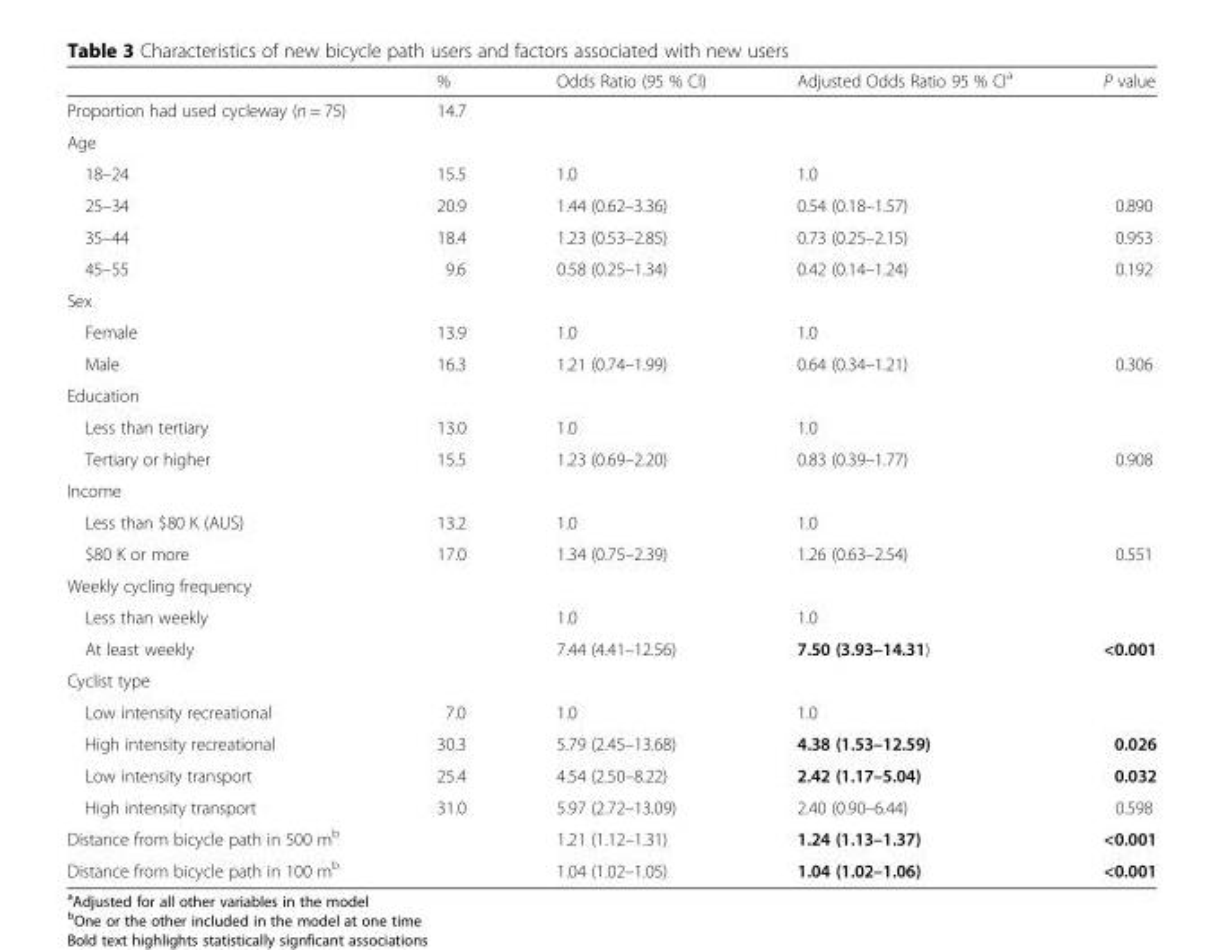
<table><thead><tr><td></td><td>%</td><td>Odds Ratio (95 % CI)</td><td>Adjusted Odds Ratio 95 % CI<sup>a</sup></td><td>P value</td></tr></thead><tbody><tr><td>Proportion had used cycleway (n = 75)</td><td>14.7</td><td></td><td></td><td></td></tr><tr><td colspan="5">Age</td></tr><tr><td>18–24</td><td>15.5</td><td>1.0</td><td>1.0</td><td></td></tr><tr><td>25–34</td><td>20.9</td><td>1.44 (0.62–3.36)</td><td>0.54 (0.18–1.57)</td><td>0.890</td></tr><tr><td>35–44</td><td>18.4</td><td>1.23 (0.53–2.85)</td><td>0.73 (0.25–2.15)</td><td>0.953</td></tr><tr><td>45–55</td><td>9.6</td><td>0.58 (0.25–1.34)</td><td>0.42 (0.14–1.24)</td><td>0.192</td></tr><tr><td colspan="5">Sex</td></tr><tr><td>Female</td><td>13.9</td><td>1.0</td><td>1.0</td><td></td></tr><tr><td>Male</td><td>16.3</td><td>1.21 (0.74–1.99)</td><td>0.64 (0.34–1.21)</td><td>0.306</td></tr><tr><td colspan="5">Education</td></tr><tr><td>Less than tertiary</td><td>13.0</td><td>1.0</td><td>1.0</td><td></td></tr><tr><td>Tertiary or higher</td><td>15.5</td><td>1.23 (0.69–2.20)</td><td>0.83 (0.39–1.77)</td><td>0.908</td></tr><tr><td colspan="5">Income</td></tr><tr><td>Less than $80 K (AUS)</td><td>13.2</td><td>1.0</td><td>1.0</td><td></td></tr><tr><td>$80 K or more</td><td>17.0</td><td>1.34 (0.75–2.39)</td><td>1.26 (0.63–2.54)</td><td>0.551</td></tr><tr><td colspan="5">Weekly cycling frequency</td></tr><tr><td>Less than weekly</td><td></td><td>1.0</td><td>1.0</td><td></td></tr><tr><td>At least weekly</td><td></td><td>7.44 (4.41–12.56)</td><td>7.50 (3.93–14.31)</td><td>&lt;0.001</td></tr><tr><td colspan="5">Cyclist type</td></tr><tr><td>Low intensity recreational</td><td>7.0</td><td>1.0</td><td>1.0</td><td></td></tr><tr><td>High intensity recreational</td><td>30.3</td><td>5.79 (2.45–13.68)</td><td>4.38 (1.53–12.59)</td><td>0.026</td></tr><tr><td>Low intensity transport</td><td>25.4</td><td>4.54 (2.50–8.22)</td><td>2.42 (1.17–5.04)</td><td>0.032</td></tr><tr><td>High intensity transport</td><td>31.0</td><td>5.97 (2.72–13.09)</td><td>2.40 (0.90–6.44)</td><td>0.598</td></tr><tr><td>Distance from bicycle path in 500 m<sup>b</sup></td><td></td><td>1.21 (1.12–1.31)</td><td>1.24 (1.13–1.37)</td><td>&lt;0.001</td></tr><tr><td>Distance from bicycle path in 100 m<sup>b</sup></td><td></td><td>1.04 (1.02–1.05)</td><td>1.04 (1.02–1.06)</td><td>&lt;0.001</td></tr></tbody></table>